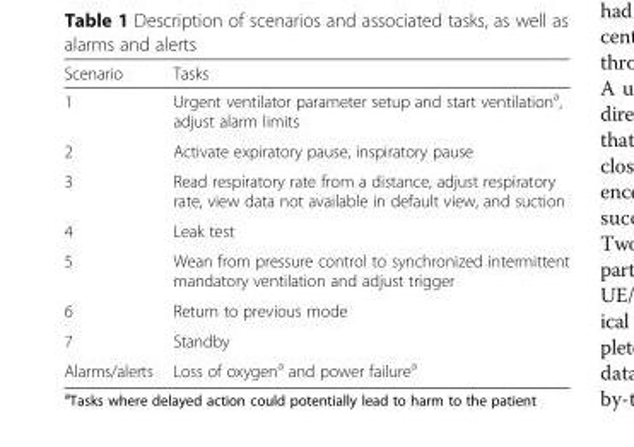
<table><thead><tr><td>Scenario</td><td>Tasks</td></tr></thead><tbody><tr><td>1</td><td>Urgent ventilator parameter setup and start ventilation<sup>a</sup>, adjust alarm limits</td></tr><tr><td>2</td><td>Activate expiratory pause, inspiratory pause</td></tr><tr><td>3</td><td>Read respiratory rate from a distance, adjust respiratory rate, view data not available in default view, and suction</td></tr><tr><td>4</td><td>Leak test</td></tr><tr><td>5</td><td>Wean from pressure control to synchronized intermittent mandatory ventilation and adjust trigger</td></tr><tr><td>6</td><td>Return to previous mode</td></tr><tr><td>7</td><td>Standby</td></tr><tr><td>Alarms/alerts</td><td>Loss of oxygen<sup>a</sup> and power failure<sup>a</sup></td></tr></tbody></table>